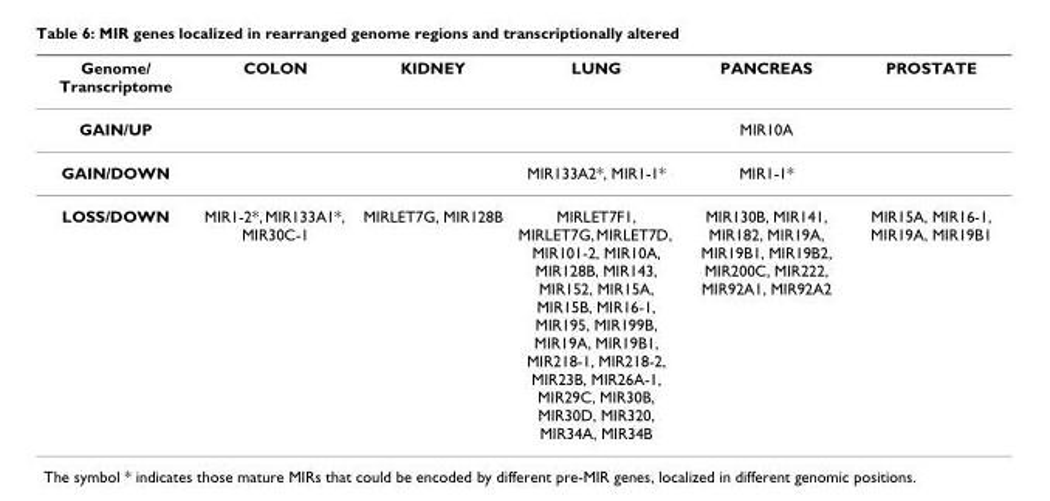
<table><thead><tr><td>Genome/ Transcriptome</td><td>COLON</td><td>KIDNEY</td><td>LUNG</td><td>PANCREAS</td><td>PROSTATE</td></tr></thead><tbody><tr><td>GAIN/UP</td><td></td><td></td><td></td><td>MIR10A</td><td></td></tr><tr><td>GAIN/DOWN</td><td></td><td></td><td>MIR133A2*, MIR1-1*</td><td>MIR1-1*</td><td></td></tr><tr><td>LOSS/DOWN</td><td>MIR1-2*, MIR133A1*, MIR30C-1</td><td>MIRLET7G, MIR128B</td><td>MIRLET7F1, MIRLET7G, MIRLET7D, MIR101-2, MIR10A, MIR128B, MIR143, MIR152, MIR15A, MIR15B, MIR16-1, MIR195, MIR199B, MIR19A, MIR19B1, MIR218-1, MIR218-2, MIR23B, MIR26A-1, MIR29C, MIR30B, MIR30D, MIR320, MIR34A, MIR34B</td><td>MIR130B, MIR141, MIR182, MIR19A, MIR19B1, MIR19B2, MIR200C, MIR222, MIR92A1, MIR92A2</td><td>MIR15A, MIR16-1, MIR19A, MIR19B1</td></tr></tbody></table>